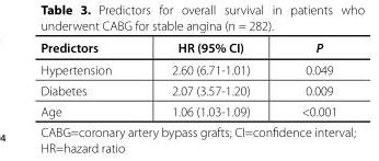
<table><thead><tr><td>Predictors</td><td>HR (95% CI)</td><td>P</td></tr></thead><tbody><tr><td>Hypertension</td><td>2.60 (6.71-1.01)</td><td>0.049</td></tr><tr><td>Diabetes</td><td>2.07 (3.57-1.20)</td><td>0.009</td></tr><tr><td>Age</td><td>1.06 (1.03-1.09)</td><td>&lt;0.001</td></tr></tbody></table>